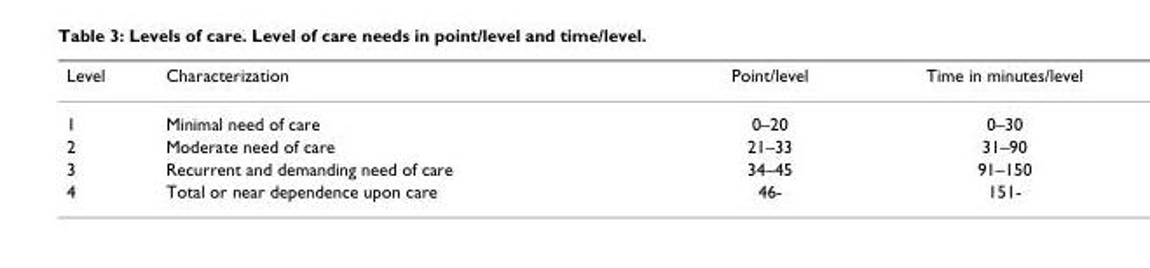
<table><thead><tr><td>Level</td><td>Characterization</td><td>Point/level</td><td>Time in minutes/level</td></tr></thead><tbody><tr><td>1</td><td>Minimal need of care</td><td>0–20</td><td>0–30</td></tr><tr><td>2</td><td>Moderate need of care</td><td>21–33</td><td>31–90</td></tr><tr><td>3</td><td>Recurrent and demanding need of care</td><td>34–45</td><td>91–150</td></tr><tr><td>4</td><td>Total or near dependence upon care</td><td>46-</td><td>151-</td></tr></tbody></table>